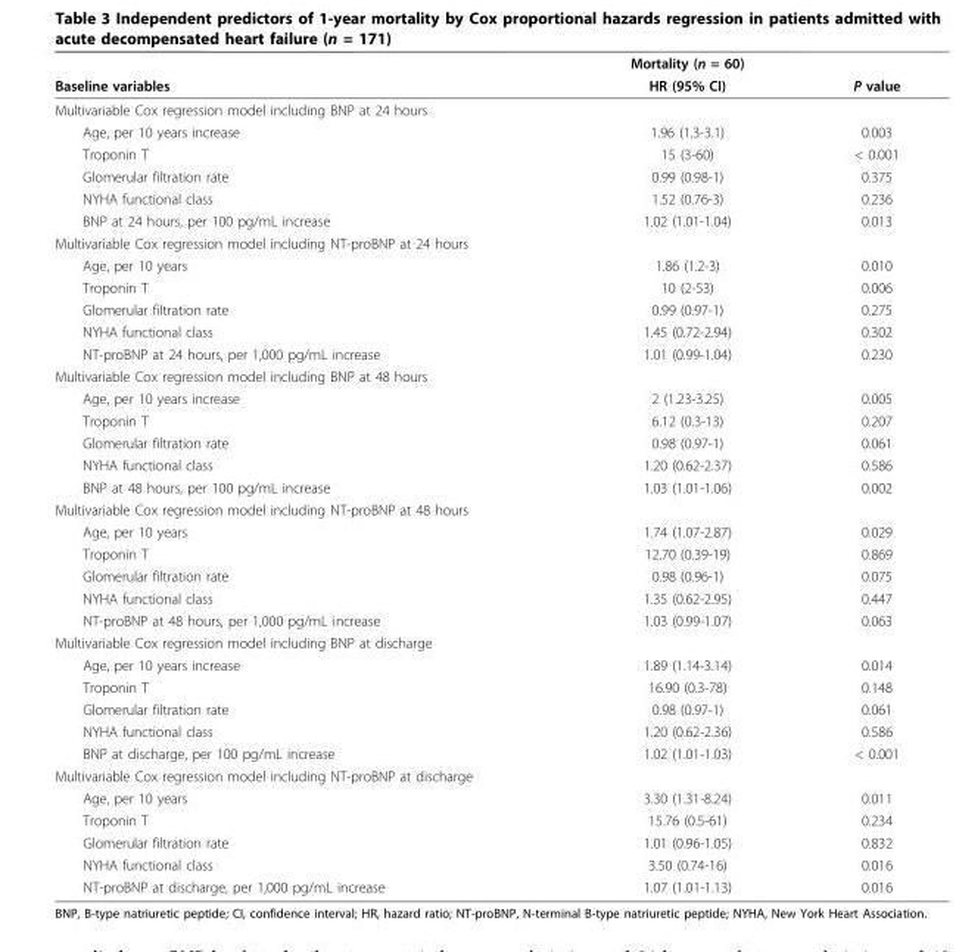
<table><thead><tr><td rowspan="2">Baseline variables</td><td rowspan="2">Mortality (n = 60) HR (95% CI)</td><td rowspan="2">P value</td></tr><tr></tr></thead><tbody><tr><td colspan="3">Multivariable Cox regression model including BNP at 24 hours</td></tr><tr><td>Age, per 10 years increase</td><td>1.96 (1.3-3.1)</td><td>0.003</td></tr><tr><td>Troponin T</td><td>15 (3-60)</td><td>&lt; 0.001</td></tr><tr><td>Glomerular filtration rate</td><td>0.99 (0.98-1)</td><td>0.375</td></tr><tr><td>NYHA functional class</td><td>1.52 (0.76-3)</td><td>0.236</td></tr><tr><td>BNP at 24 hours, per 100 pg/mL increase</td><td>1.02 (1.01-1.04)</td><td>0.013</td></tr><tr><td colspan="3">Multivariable Cox regression model including NT-proBNP at 24 hours</td></tr><tr><td>Age, per 10 years</td><td>1.86 (1.2-3)</td><td>0.010</td></tr><tr><td>Troponin T</td><td>10 (2-53)</td><td>0.006</td></tr><tr><td>Glomerular filtration rate</td><td>0.99 (0.97-1)</td><td>0.275</td></tr><tr><td>NYHA functional class</td><td>1.45 (0.72-2.94)</td><td>0.302</td></tr><tr><td>NT-proBNP at 24 hours, per 1,000 pg/mL increase</td><td>1.01 (0.99-1.04)</td><td>0.230</td></tr><tr><td colspan="3">Multivariable Cox regression model including BNP at 48 hours</td></tr><tr><td>Age, per 10 years increase</td><td>2 (1.23-3.25)</td><td>0.005</td></tr><tr><td>Troponin T</td><td>6.12 (0.3-13)</td><td>0.207</td></tr><tr><td>Glomerular filtration rate</td><td>0.98 (0.97-1)</td><td>0.061</td></tr><tr><td>NYHA functional class</td><td>1.20 (0.62-2.37)</td><td>0.586</td></tr><tr><td>BNP at 48 hours, per 100 pg/mL increase</td><td>1.03 (1.01-1.06)</td><td>0.002</td></tr><tr><td colspan="3">Multivariable Cox regression model including NT-proBNP at 48 hours</td></tr><tr><td>Age, per 10 years</td><td>1.74 (1.07-2.87)</td><td>0.029</td></tr><tr><td>Troponin T</td><td>12.70 (0.39-19)</td><td>0.869</td></tr><tr><td>Glomerular filtration rate</td><td>0.98 (0.96-1)</td><td>0.075</td></tr><tr><td>NYHA functional class</td><td>1.35 (0.62-2.95)</td><td>0.447</td></tr><tr><td>NT-proBNP at 48 hours, per 1,000 pg/mL increase</td><td>1.03 (0.99-1.07)</td><td>0.063</td></tr><tr><td colspan="3">Multivariable Cox regression model including BNP at discharge</td></tr><tr><td>Age, per 10 years increase</td><td>1.89 (1.14-3.14)</td><td>0.014</td></tr><tr><td>Troponin T</td><td>16.90 (0.3-78)</td><td>0.148</td></tr><tr><td>Glomerular filtration rate</td><td>0.98 (0.97-1)</td><td>0.061</td></tr><tr><td>NYHA functional class</td><td>1.20 (0.62-2.36)</td><td>0.586</td></tr><tr><td>BNP at discharge, per 100 pg/mL increase</td><td>1.02 (1.01-1.03)</td><td>&lt; 0.001</td></tr><tr><td colspan="3">Multivariable Cox regression model including NT-proBNP at discharge</td></tr><tr><td>Age, per 10 years</td><td>3.30 (1.31-8.24)</td><td>0.011</td></tr><tr><td>Troponin T</td><td>15.76 (0.5-61)</td><td>0.234</td></tr><tr><td>Glomerular filtration rate</td><td>1.01 (0.96-1.05)</td><td>0.832</td></tr><tr><td>NYHA functional class</td><td>3.50 (0.74-16)</td><td>0.016</td></tr><tr><td>NT-proBNP at discharge, per 1,000 pg/mL increase</td><td>1.07 (1.01-1.13)</td><td>0.016</td></tr></tbody></table>